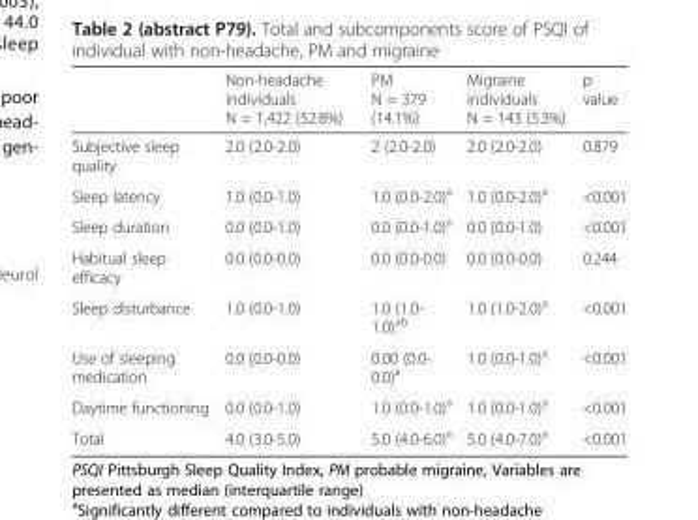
<table><thead><tr><td></td><td>Non-headache individuals N = 1,422 (52.8%)</td><td>PM N = 379 (14.1%)</td><td>Migraine individuals N = 143 (5.3%)</td><td>p value</td></tr></thead><tbody><tr><td>Subjective sleep quality</td><td>2.0 (2.0-2.0)</td><td>2 (2.0-2.0)</td><td>2.0 (2.0-2.0)</td><td>0.879</td></tr><tr><td>Sleep latency</td><td>1.0 (0.0-1.0)</td><td>1.0 (0.0-2.0)<sup>a</sup></td><td>1.0 (0.0-2.0)<sup>a</sup></td><td>&lt;0.001</td></tr><tr><td>Sleep duration</td><td>0.0 (0.0-1.0)</td><td>0.0 (0.0-1.0)<sup>a</sup></td><td>0.0 (0.0-1.0)</td><td>&lt;0.001</td></tr><tr><td>Habitual sleep efficacy</td><td>0.0 (0.0-0.0)</td><td>0.0 (0.0-0.0)</td><td>0.0 (0.0-0.0)</td><td>0.244</td></tr><tr><td>Sleep disturbance</td><td>1.0 (0.0-1.0)</td><td>1.0 (1.0- 1.0)<sup>ab</sup></td><td>1.0 (1.0-2.0)<sup>a</sup></td><td>&lt;0.001</td></tr><tr><td>Use of sleeping medication</td><td>0.0 (0.0-0.0)</td><td>0.00 (0.0- 0.0)<sup>a</sup></td><td>1.0 (0.0-1.0)<sup>a</sup></td><td>&lt;0.001</td></tr><tr><td>Daytime functioning</td><td>0.0 (0.0-1.0)</td><td>1.0 (0.0-1.0)<sup>a</sup></td><td>1.0 (0.0-1.0)<sup>a</sup></td><td>&lt;0.001</td></tr><tr><td>Total</td><td>4.0 (3.0-5.0)</td><td>5.0 (4.0-6.0)<sup>a</sup></td><td>5.0 (4.0-7.0)<sup>a</sup></td><td>&lt;0.001</td></tr></tbody></table>